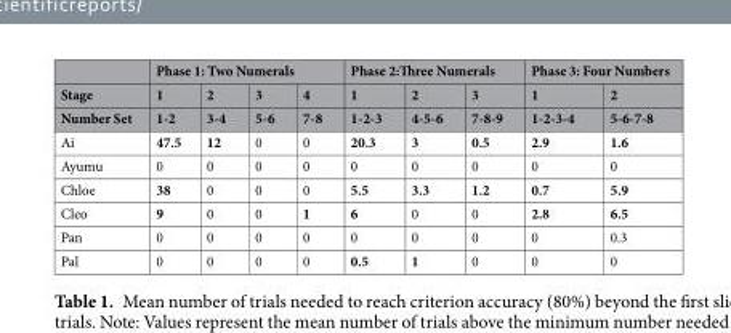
<table><thead><tr><td rowspan="2">Stage</td><td colspan="4">Phase 1: Two Numerals</td><td colspan="3">Phase 2:Three Numerals</td><td colspan="2">Phase 3: Four Numbers</td></tr><tr><td>1</td><td>2</td><td>3</td><td>4</td><td>1</td><td>2</td><td>3</td><td>1</td><td>2</td></tr></thead><tbody><tr><td>Number Set</td><td>1-2</td><td>3-4</td><td>5-6</td><td>7-8</td><td>1-2-3</td><td>4-5-6</td><td>7-8-9</td><td>1-2-3-4</td><td>5-6-7-8</td></tr><tr><td>Ai</td><td>47.5</td><td>12</td><td>0</td><td>0</td><td>20.3</td><td>3</td><td>0.5</td><td>2.9</td><td>1.6</td></tr><tr><td>Ayumu</td><td>0</td><td>0</td><td>0</td><td>0</td><td>0</td><td>0</td><td>0</td><td>0</td><td>0</td></tr><tr><td>Chloe</td><td>38</td><td>0</td><td>0</td><td>0</td><td>5.5</td><td>3.3</td><td>1.2</td><td>0.7</td><td>5.9</td></tr><tr><td>Cleo</td><td>9</td><td>0</td><td>0</td><td>1</td><td>6</td><td>0</td><td>0</td><td>2.8</td><td>6.5</td></tr><tr><td>Pan</td><td>0</td><td>0</td><td>0</td><td>0</td><td>0</td><td>0</td><td>0</td><td>0</td><td>0.3</td></tr><tr><td>Pal</td><td>0</td><td>0</td><td>0</td><td>0</td><td>0.5</td><td>1</td><td>0</td><td>0</td><td>0</td></tr></tbody></table>